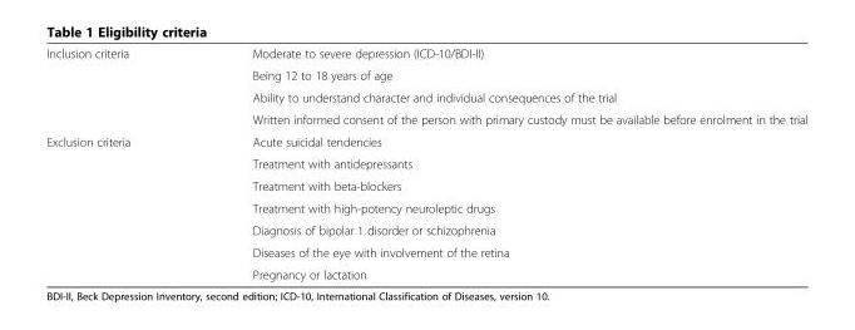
<table><tbody><tr><td rowspan="4">Inclusion criteria</td><td>Moderate to severe depression (ICD-10/BDI-II)</td></tr><tr><td>Being 12 to 18 years of age</td></tr><tr><td>Ability to understand character and individual consequences of the trial</td></tr><tr><td>Written informed consent of the person with primary custody must be available before enrolment in the trial</td></tr><tr><td rowspan="7">Exclusion criteria</td><td>Acute suicidal tendencies</td></tr><tr><td>Treatment with antidepressants</td></tr><tr><td>Treatment with beta-blockers</td></tr><tr><td>Treatment with high-potency neuroleptic drugs</td></tr><tr><td>Diagnosis of bipolar 1 disorder or schizophrenia</td></tr><tr><td>Diseases of the eye with involvement of the retina</td></tr><tr><td>Pregnancy or lactation</td></tr></tbody></table>